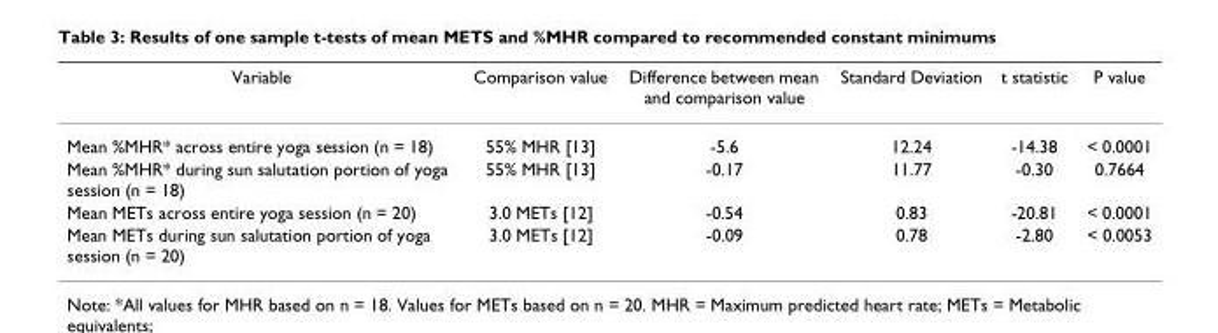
<table><thead><tr><td>Variable</td><td>Comparison value</td><td>Difference between mean and comparison value</td><td>Standard Deviation</td><td>t statistic</td><td>P value</td></tr></thead><tbody><tr><td>Mean %MHR* across entire yoga session (n = 18)</td><td>55% MHR [13]</td><td>-5.6</td><td>12.24</td><td>-14.38</td><td>&lt; 0.0001</td></tr><tr><td>Mean %MHR* during sun salutation portion of yoga session (n = 18)</td><td>55% MHR [13]</td><td>-0.17</td><td>11.77</td><td>-0.30</td><td>0.7664</td></tr><tr><td>Mean METs across entire yoga session (n = 20)</td><td>3.0 METs [12]</td><td>-0.54</td><td>0.83</td><td>-20.81</td><td>&lt; 0.0001</td></tr><tr><td>Mean METs during sun salutation portion of yoga session (n = 20)</td><td>3.0 METs [12]</td><td>-0.09</td><td>0.78</td><td>-2.80</td><td>&lt; 0.0053</td></tr></tbody></table>